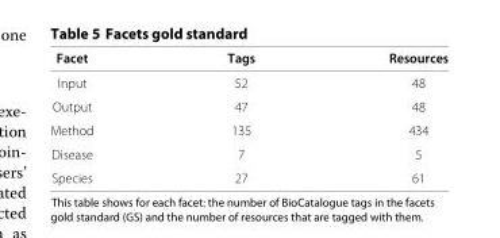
<table><thead><tr><td>Facet</td><td>Tags</td><td>Resources</td></tr></thead><tbody><tr><td>Input</td><td>52</td><td>48</td></tr><tr><td>Output</td><td>47</td><td>48</td></tr><tr><td>Method</td><td>135</td><td>434</td></tr><tr><td>Disease</td><td>7</td><td>5</td></tr><tr><td>Species</td><td>27</td><td>61</td></tr></tbody></table>